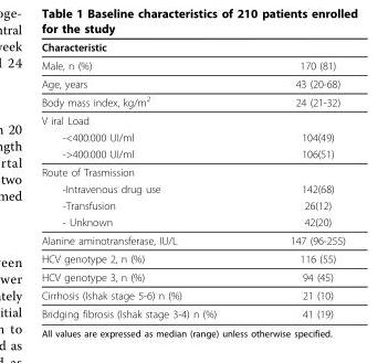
<table><thead><tr><td>Characteristic</td><td></td></tr></thead><tbody><tr><td>Male, n (%)</td><td>170 (81)</td></tr><tr><td>Age, years</td><td>43 (20-68)</td></tr><tr><td>Body mass index, kg/m<sup>2</sup></td><td>24 (21-32)</td></tr><tr><td colspan="2">V iral Load</td></tr><tr><td>-&lt;400.000 UI/ml</td><td>104(49)</td></tr><tr><td>-&gt;400.000 UI/ml</td><td>106(51)</td></tr><tr><td colspan="2">Route of Trasmission</td></tr><tr><td>-Intravenous drug use</td><td>142(68)</td></tr><tr><td>-Transfusion</td><td>26(12)</td></tr><tr><td>- Unknown</td><td>42(20)</td></tr><tr><td>Alanine aminotransferase, IU/L</td><td>147 (96-255)</td></tr><tr><td>HCV genotype 2, n (%)</td><td>116 (55)</td></tr><tr><td>HCV genotype 3, n (%)</td><td>94 (45)</td></tr><tr><td>Cirrhosis (Ishak stage 5-6) n (%)</td><td>21 (10)</td></tr><tr><td>Bridging fibrosis (Ishak stage 3-4) n (%)</td><td>41 (19)</td></tr></tbody></table>